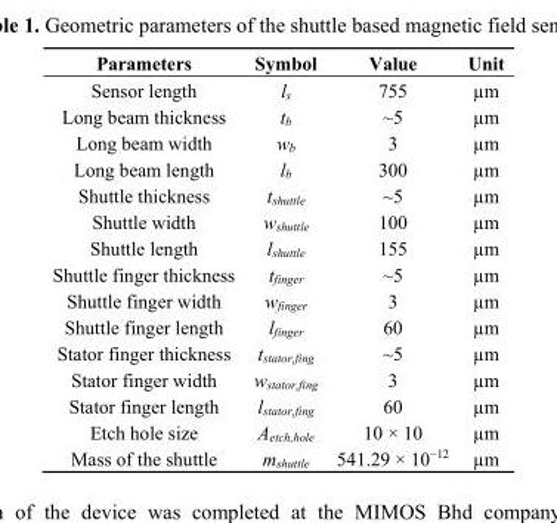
<table><thead><tr><td>Parameters</td><td>Symbol</td><td>Value</td><td>Unit</td></tr></thead><tbody><tr><td>Sensor length</td><td>l<sub>s</sub></td><td>755</td><td>µm</td></tr><tr><td>Long beam thickness</td><td>t<sub>b</sub></td><td>~5</td><td>µm</td></tr><tr><td>Long beam width</td><td>w<sub>b</sub></td><td>3</td><td>µm</td></tr><tr><td>Long beam length</td><td>l<sub>b</sub></td><td>300</td><td>µm</td></tr><tr><td>Shuttle thickness</td><td>t<sub>shuttle</sub></td><td>~5</td><td>µm</td></tr><tr><td>Shuttle width</td><td>w<sub>shuttle</sub></td><td>100</td><td>µm</td></tr><tr><td>Shuttle length</td><td>l<sub>shuttle</sub></td><td>155</td><td>µm</td></tr><tr><td>Shuttle finger thickness</td><td>t<sub>finger</sub></td><td>~5</td><td>µm</td></tr><tr><td>Shuttle finger width</td><td>w<sub>finger</sub></td><td>3</td><td>µm</td></tr><tr><td>Shuttle finger length</td><td>l<sub>finger</sub></td><td>60</td><td>µm</td></tr><tr><td>Stator finger thickness</td><td>t<sub>stator,fing</sub></td><td>~5</td><td>µm</td></tr><tr><td>Stator finger width</td><td>w<sub>stator,fing</sub></td><td>3</td><td>µm</td></tr><tr><td>Stator finger length</td><td>l<sub>stator,fing</sub></td><td>60</td><td>µm</td></tr><tr><td>Etch hole size</td><td>A<sub>etch,hole</sub></td><td>10 × 10</td><td>µm</td></tr><tr><td>Mass of the shuttle</td><td>m<sub>shuttle</sub></td><td>541.29 × 10<sup>−12</sup></td><td>µm</td></tr></tbody></table>